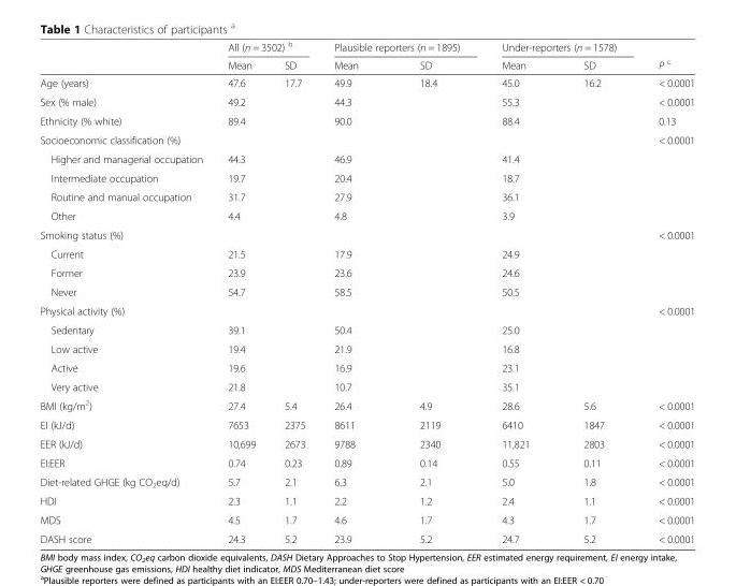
<table><thead><tr><td rowspan="2"></td><td colspan="2">All (n = 3502) <sup>b</sup></td><td colspan="2">Plausible reporters (n = 1895)</td><td colspan="2">Under-reporters (n = 1578)</td><td rowspan="2">P <sup>c</sup></td></tr><tr><td>Mean</td><td>SD</td><td>Mean</td><td>SD</td><td>Mean</td><td>SD</td></tr></thead><tbody><tr><td>Age (years)</td><td>47.6</td><td>17.7</td><td>49.9</td><td>18.4</td><td>45.0</td><td>16.2</td><td>&lt; 0.0001</td></tr><tr><td>Sex (% male)</td><td colspan="2">49.2</td><td colspan="2">44.3</td><td colspan="2">55.3</td><td>&lt; 0.0001</td></tr><tr><td>Ethnicity (% white)</td><td colspan="2">89.4</td><td colspan="2">90.0</td><td colspan="2">88.4</td><td>0.13</td></tr><tr><td>Socioeconomic classification (%)</td><td colspan="2"></td><td colspan="2"></td><td colspan="2"></td><td>&lt; 0.0001</td></tr><tr><td>Higher and managerial occupation</td><td colspan="2">44.3</td><td colspan="2">46.9</td><td colspan="2">41.4</td><td></td></tr><tr><td>Intermediate occupation</td><td colspan="2">19.7</td><td colspan="2">20.4</td><td colspan="2">18.7</td><td></td></tr><tr><td>Routine and manual occupation</td><td colspan="2">31.7</td><td colspan="2">27.9</td><td colspan="2">36.1</td><td></td></tr><tr><td>Other</td><td colspan="2">4.4</td><td colspan="2">4.8</td><td colspan="2">3.9</td><td></td></tr><tr><td>Smoking status (%)</td><td colspan="2"></td><td colspan="2"></td><td colspan="2"></td><td>&lt; 0.0001</td></tr><tr><td>Current</td><td colspan="2">21.5</td><td colspan="2">17.9</td><td colspan="2">24.9</td><td></td></tr><tr><td>Former</td><td colspan="2">23.9</td><td colspan="2">23.6</td><td colspan="2">24.6</td><td></td></tr><tr><td>Never</td><td colspan="2">54.7</td><td colspan="2">58.5</td><td colspan="2">50.5</td><td></td></tr><tr><td>Physical activity (%)</td><td colspan="2"></td><td colspan="2"></td><td colspan="2"></td><td>&lt; 0.0001</td></tr><tr><td>Sedentary</td><td colspan="2">39.1</td><td colspan="2">50.4</td><td colspan="2">25.0</td><td></td></tr><tr><td>Low active</td><td colspan="2">19.4</td><td colspan="2">21.9</td><td colspan="2">16.8</td><td></td></tr><tr><td>Active</td><td colspan="2">19.6</td><td colspan="2">16.9</td><td colspan="2">23.1</td><td></td></tr><tr><td>Very active</td><td colspan="2">21.8</td><td colspan="2">10.7</td><td colspan="2">35.1</td><td></td></tr><tr><td>BMI (kg/m<sup>2</sup>)</td><td>27.4</td><td>5.4</td><td>26.4</td><td>4.9</td><td>28.6</td><td>5.6</td><td>&lt; 0.0001</td></tr><tr><td>EI (kJ/d)</td><td>7653</td><td>2375</td><td>8611</td><td>2119</td><td>6410</td><td>1847</td><td>&lt; 0.0001</td></tr><tr><td>EER (kJ/d)</td><td>10,699</td><td>2673</td><td>9788</td><td>2340</td><td>11,821</td><td>2803</td><td>&lt; 0.0001</td></tr><tr><td>EI:EER</td><td>0.74</td><td>0.23</td><td>0.89</td><td>0.14</td><td>0.55</td><td>0.11</td><td>&lt; 0.0001</td></tr><tr><td>Diet-related GHGE (kg CO<sub>2</sub>eq/d)</td><td>5.7</td><td>2.1</td><td>6.3</td><td>2.1</td><td>5.0</td><td>1.8</td><td>&lt; 0.0001</td></tr><tr><td>HDI</td><td>2.3</td><td>1.1</td><td>2.2</td><td>1.2</td><td>2.4</td><td>1.1</td><td>&lt; 0.0001</td></tr><tr><td>MDS</td><td>4.5</td><td>1.7</td><td>4.6</td><td>1.7</td><td>4.3</td><td>1.7</td><td>&lt; 0.0001</td></tr><tr><td>DASH score</td><td>24.3</td><td>5.2</td><td>23.9</td><td>5.2</td><td>24.7</td><td>5.2</td><td>&lt; 0.0001</td></tr></tbody></table>